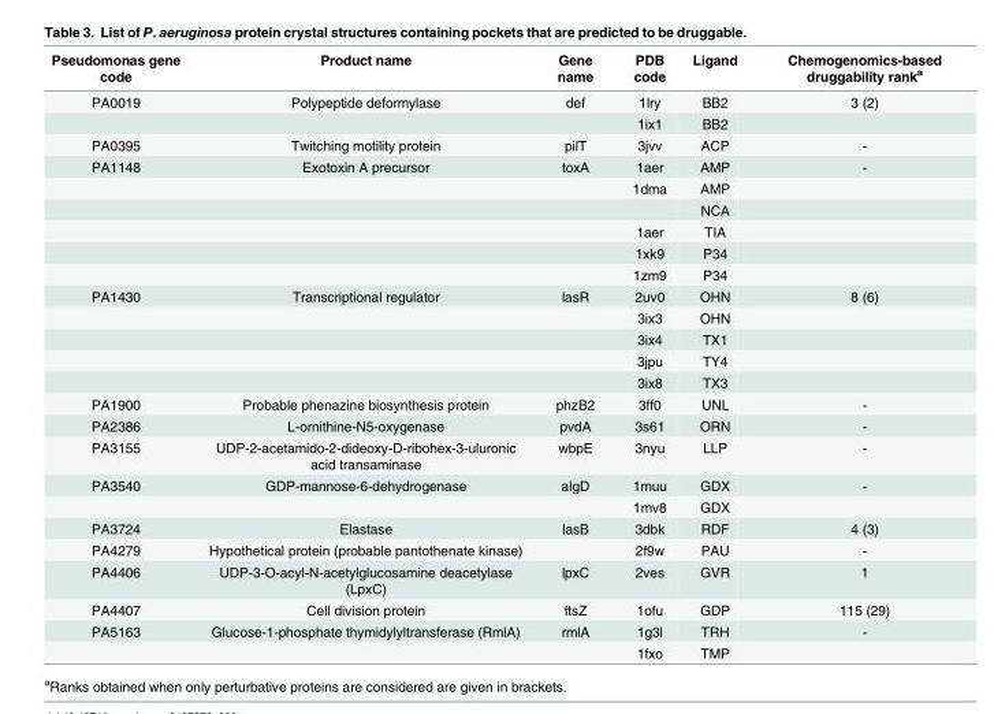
<table><thead><tr><td>Pseudomonas gene code</td><td>Product name</td><td>Gene name</td><td>PDB code</td><td>Ligand</td><td>Chemogenomics-based druggability rank<sup>a</sup></td></tr></thead><tbody><tr><td rowspan="2">PA0019</td><td>Polypeptide deformylase</td><td>def</td><td>1lry</td><td>BB2</td><td>3 (2)</td></tr><tr><td></td><td></td><td>1ix1</td><td>BB2</td><td></td></tr><tr><td>PA0395</td><td>Twitching motility protein</td><td>pilT</td><td>3jvv</td><td>ACP</td><td>-</td></tr><tr><td rowspan="6">PA1148</td><td>Exotoxin A precursor</td><td>toxA</td><td>1aer</td><td>AMP</td><td>-</td></tr><tr><td></td><td></td><td>1dma</td><td>AMP</td><td></td></tr><tr><td></td><td></td><td></td><td>NCA</td><td></td></tr><tr><td></td><td></td><td>1aer</td><td>TIA</td><td></td></tr><tr><td></td><td></td><td>1xk9</td><td>P34</td><td></td></tr><tr><td></td><td></td><td>1zm9</td><td>P34</td><td></td></tr><tr><td rowspan="5">PA1430</td><td>Transcriptional regulator</td><td>lasR</td><td>2uv0</td><td>OHN</td><td>8 (6)</td></tr><tr><td></td><td></td><td>3ix3</td><td>OHN</td><td></td></tr><tr><td></td><td></td><td>3ix4</td><td>TX1</td><td></td></tr><tr><td></td><td></td><td>3jpu</td><td>TY4</td><td></td></tr><tr><td></td><td></td><td>3ix8</td><td>TX3</td><td></td></tr><tr><td>PA1900</td><td>Probable phenazine biosynthesis protein</td><td>phzB2</td><td>3ff0</td><td>UNL</td><td>-</td></tr><tr><td>PA2386</td><td>L-ornithine-N5-oxygenase</td><td>pvdA</td><td>3s61</td><td>ORN</td><td>-</td></tr><tr><td>PA3155</td><td>UDP-2-acetamido-2-dideoxy-D-ribohex-3-uluronic acid transaminase</td><td>wbpE</td><td>3nyu</td><td>LLP</td><td>-</td></tr><tr><td rowspan="2">PA3540</td><td>GDP-mannose-6-dehydrogenase</td><td>algD</td><td>1muu</td><td>GDX</td><td>-</td></tr><tr><td></td><td></td><td>1mv8</td><td>GDX</td><td></td></tr><tr><td>PA3724</td><td>Elastase</td><td>lasB</td><td>3dbk</td><td>RDF</td><td>4 (3)</td></tr><tr><td>PA4279</td><td>Hypothetical protein (probable pantothenate kinase)</td><td></td><td>2f9w</td><td>PAU</td><td>-</td></tr><tr><td>PA4406</td><td>UDP-3-O-acyl-N-acetylglucosamine deacetylase (LpxC)</td><td>lpxC</td><td>2ves</td><td>GVR</td><td>1</td></tr><tr><td>PA4407</td><td>Cell division protein</td><td>ftsZ</td><td>1ofu</td><td>GDP</td><td>115 (29)</td></tr><tr><td rowspan="2">PA5163</td><td>Glucose-1-phosphate thymidylyltransferase (RmlA)</td><td>rmlA</td><td>1g3l</td><td>TRH</td><td>-</td></tr><tr><td></td><td></td><td>1fxo</td><td>TMP</td><td></td></tr></tbody></table>